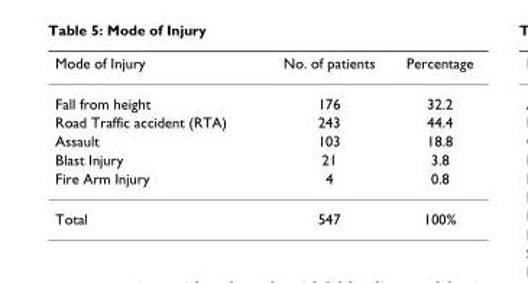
<table><thead><tr><td>Mode of Injury</td><td>No. of patients</td><td>Percentage</td></tr></thead><tbody><tr><td>Fall from height</td><td>176</td><td>32.2</td></tr><tr><td>Road Traffic accident (RTA)</td><td>243</td><td>44.4</td></tr><tr><td>Assault</td><td>103</td><td>18.8</td></tr><tr><td>Blast Injury</td><td>21</td><td>3.8</td></tr><tr><td>Fire Arm Injury</td><td>4</td><td>0.8</td></tr><tr><td>Total</td><td>547</td><td>100%</td></tr></tbody></table>